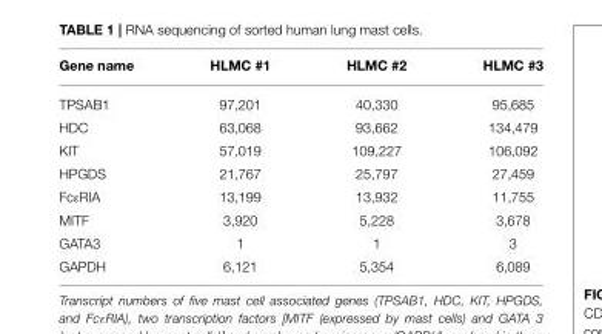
<table><thead><tr><td>Gene name</td><td>HLMC #1</td><td>HLMC #2</td><td>HLMC #3</td></tr></thead><tbody><tr><td>TPSAB1</td><td>97,201</td><td>40,330</td><td>95,685</td></tr><tr><td>HDC</td><td>63,068</td><td>93,662</td><td>134,479</td></tr><tr><td>KIT</td><td>57,019</td><td>109,227</td><td>106,092</td></tr><tr><td>HPGDS</td><td>21,767</td><td>25,797</td><td>27,459</td></tr><tr><td>FcεRIA</td><td>13,199</td><td>13,932</td><td>11,755</td></tr><tr><td>MITF</td><td>3,920</td><td>5,228</td><td>3,678</td></tr><tr><td>GATA3</td><td>1</td><td>1</td><td>3</td></tr><tr><td>GAPDH</td><td>6,121</td><td>5,354</td><td>6,089</td></tr></tbody></table>